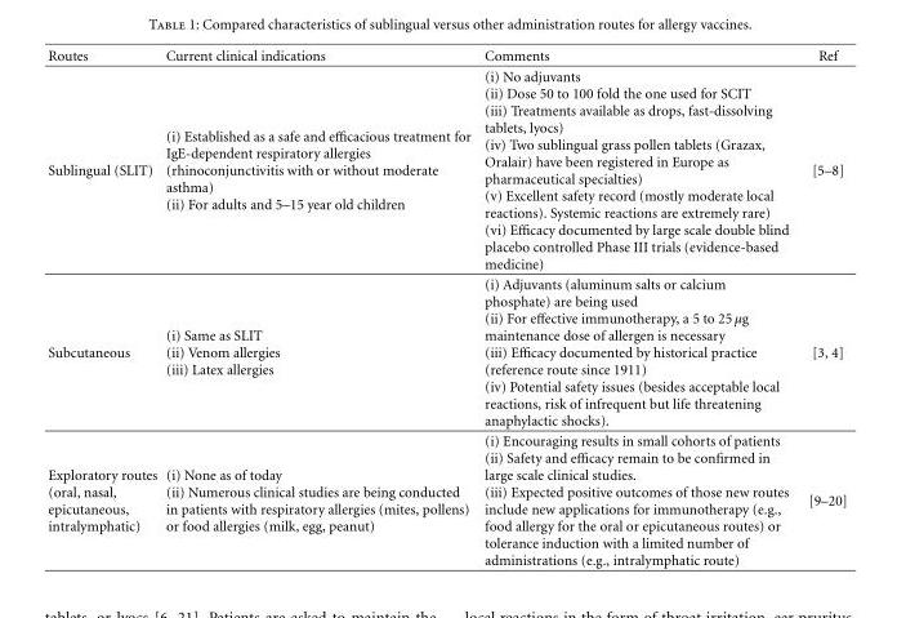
<table><thead><tr><td>Routes</td><td>Current clinical indications</td><td>Comments</td><td>Ref</td></tr></thead><tbody><tr><td>Sublingual (SLIT)</td><td>(i) Established as a safe and efficacious treatment for IgE-dependent respiratory allergies (rhinoconjunctivitis with or without moderate asthma) (ii) For adults and 5–15 year old children</td><td>(i) No adjuvants (ii) Dose 50 to 100 fold the one used for SCIT (iii) Treatments available as drops, fast-dissolving tablets, lyocs) (iv) Two sublingual grass pollen tablets (Grazax, Oralair) have been registered in Europe as pharmaceutical specialties) (v) Excellent safety record (mostly moderate local reactions). Systemic reactions are extremely rare) (vi) Efficacy documented by large scale double blind placebo controlled Phase III trials (evidence-based medicine)</td><td>[5–8]</td></tr><tr><td>Subcutaneous</td><td>(i) Same as SLIT (ii) Venom allergies (iii) Latex allergies</td><td>(i) Adjuvants (aluminum salts or calcium phosphate) are being used (ii) For effective immunotherapy, a 5 to 25 μg maintenance dose of allergen is necessary (iii) Efficacy documented by historical practice (reference route since 1911) (iv) Potential safety issues (besides acceptable local reactions, risk of infrequent but life threatening anaphylactic shocks).</td><td>[3, 4]</td></tr><tr><td>Exploratory routes (oral, nasal, epicutaneous, intralymphatic)</td><td>(i) None as of today (ii) Numerous clinical studies are being conducted in patients with respiratory allergies (mites, pollens) or food allergies (milk, egg, peanut)</td><td>(i) Encouraging results in small cohorts of patients (ii) Safety and efficacy remain to be confirmed in large scale clinical studies. (iii) Expected positive outcomes of those new routes include new applications for immunotherapy (e.g., food allergy for the oral or epicutaneous routes) or tolerance induction with a limited number of administrations (e.g., intralymphatic route)</td><td>[9–20]</td></tr></tbody></table>